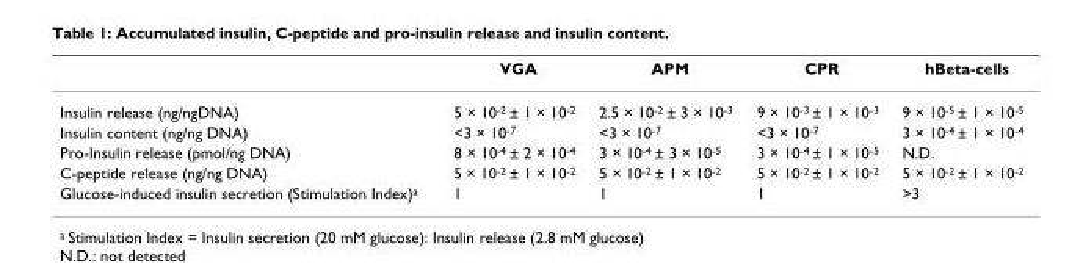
<table><thead><tr><td></td><td>VGA</td><td>APM</td><td>CPR</td><td>hBeta-cells</td></tr></thead><tbody><tr><td>Insulin release (ng/ngDNA)</td><td>5 × 10<sup>-2</sup> ± 1 × 10<sup>-2</sup></td><td>2.5 × 10<sup>-2</sup> ± 3 × 10<sup>-3</sup></td><td>9 × 10<sup>-3</sup> ± 1 × 10<sup>-3</sup></td><td>9 × 10<sup>-5</sup> ± 1 × 10<sup>-5</sup></td></tr><tr><td>Insulin content (ng/ng DNA)</td><td>&lt;3 × 10<sup>-7</sup></td><td>&lt;3 × 10<sup>-7</sup></td><td>&lt;3 × 10<sup>-7</sup></td><td>3 × 10<sup>-4</sup> ± 1 × 10<sup>-4</sup></td></tr><tr><td>Pro-Insulin release (pmol/ng DNA)</td><td>8 × 10<sup>-4</sup> ± 2 × 10<sup>-4</sup></td><td>3 × 10<sup>-4</sup> ± 3 × 10<sup>-5</sup></td><td>3 × 10<sup>-4</sup> ± 1 × 10<sup>-5</sup></td><td>N.D.</td></tr><tr><td>C-peptide release (ng/ng DNA)</td><td>5 × 10<sup>-2</sup> ± 1 × 10<sup>-2</sup></td><td>5 × 10<sup>-2</sup> ± 1 × 10<sup>-2</sup></td><td>5 × 10<sup>-2</sup> ± 1 × 10<sup>-2</sup></td><td>5 × 10<sup>-2</sup> ± 1 × 10<sup>-2</sup></td></tr><tr><td>Glucose-induced insulin secretion (Stimulation Index)<sup>a</sup></td><td>1</td><td>1</td><td>1</td><td>&gt;3</td></tr></tbody></table>